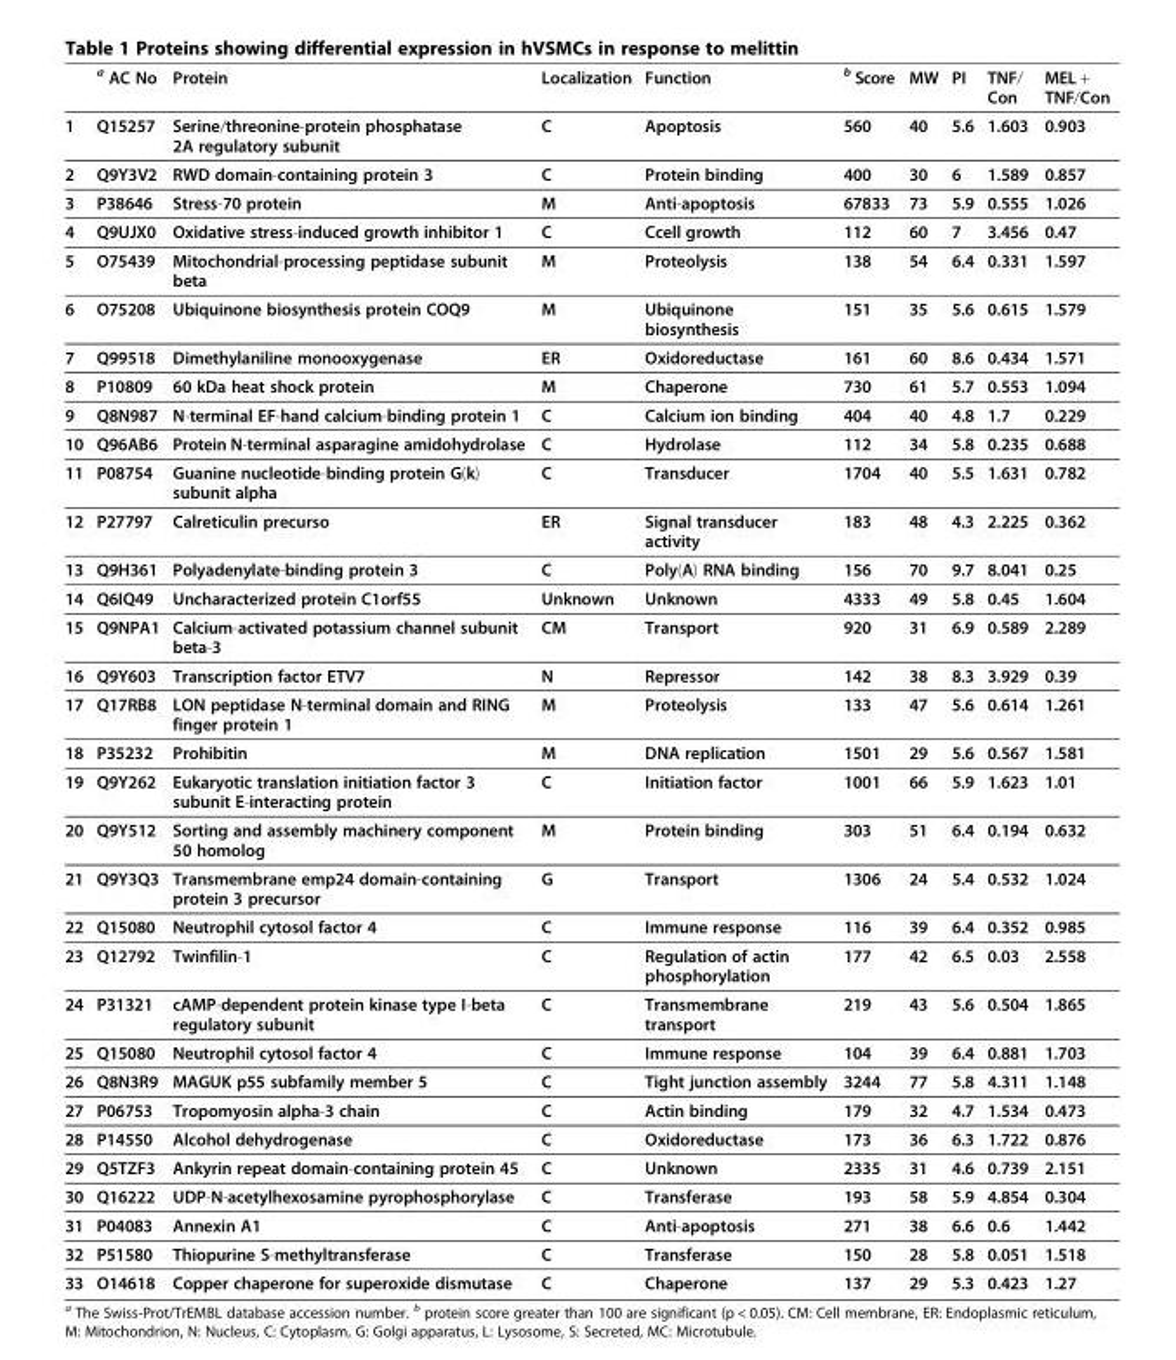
<table><thead><tr><td></td><td><sup>a</sup> AC No</td><td>Protein</td><td>Localization</td><td>Function</td><td><sup>b</sup> Score</td><td>MW</td><td>PI</td><td>TNF/ Con</td><td>MEL + TNF/Con</td></tr></thead><tbody><tr><td>1</td><td>Q15257</td><td>Serine/threonine-protein phosphatase 2A regulatory subunit</td><td>C</td><td>Apoptosis</td><td>560</td><td>40</td><td>5.6</td><td>1.603</td><td>0.903</td></tr><tr><td>2</td><td>Q9Y3V2</td><td>RWD domain-containing protein 3</td><td>C</td><td>Protein binding</td><td>400</td><td>30</td><td>6</td><td>1.589</td><td>0.857</td></tr><tr><td>3</td><td>P38646</td><td>Stress-70 protein</td><td>M</td><td>Anti-apoptosis</td><td>67833</td><td>73</td><td>5.9</td><td>0.555</td><td>1.026</td></tr><tr><td>4</td><td>Q9UJX0</td><td>Oxidative stress-induced growth inhibitor 1</td><td>C</td><td>Ccell growth</td><td>112</td><td>60</td><td>7</td><td>3.456</td><td>0.47</td></tr><tr><td>5</td><td>O75439</td><td>Mitochondrial-processing peptidase subunit beta</td><td>M</td><td>Proteolysis</td><td>138</td><td>54</td><td>6.4</td><td>0.331</td><td>1.597</td></tr><tr><td>6</td><td>O75208</td><td>Ubiquinone biosynthesis protein COQ9</td><td>M</td><td>Ubiquinone biosynthesis</td><td>151</td><td>35</td><td>5.6</td><td>0.615</td><td>1.579</td></tr><tr><td>7</td><td>Q99518</td><td>Dimethylaniline monooxygenase</td><td>ER</td><td>Oxidoreductase</td><td>161</td><td>60</td><td>8.6</td><td>0.434</td><td>1.571</td></tr><tr><td>8</td><td>P10809</td><td>60 kDa heat shock protein</td><td>M</td><td>Chaperone</td><td>730</td><td>61</td><td>5.7</td><td>0.553</td><td>1.094</td></tr><tr><td>9</td><td>Q8N987</td><td>N-terminal EF-hand calcium-binding protein 1</td><td>C</td><td>Calcium ion binding</td><td>404</td><td>40</td><td>4.8</td><td>1.7</td><td>0.229</td></tr><tr><td>10</td><td>Q96AB6</td><td>Protein N-terminal asparagine amidohydrolase</td><td>C</td><td>Hydrolase</td><td>112</td><td>34</td><td>5.8</td><td>0.235</td><td>0.688</td></tr><tr><td>11</td><td>P08754</td><td>Guanine nucleotide-binding protein G(k) subunit alpha</td><td>C</td><td>Transducer</td><td>1704</td><td>40</td><td>5.5</td><td>1.631</td><td>0.782</td></tr><tr><td>12</td><td>P27797</td><td>Calreticulin precurso</td><td>ER</td><td>Signal transducer activity</td><td>183</td><td>48</td><td>4.3</td><td>2.225</td><td>0.362</td></tr><tr><td>13</td><td>Q9H361</td><td>Polyadenylate-binding protein 3</td><td>C</td><td>Poly(A) RNA binding</td><td>156</td><td>70</td><td>9.7</td><td>8.041</td><td>0.25</td></tr><tr><td>14</td><td>Q6IQ49</td><td>Uncharacterized protein C1orf55</td><td>Unknown</td><td>Unknown</td><td>4333</td><td>49</td><td>5.8</td><td>0.45</td><td>1.604</td></tr><tr><td>15</td><td>Q9NPA1</td><td>Calcium-activated potassium channel subunit beta-3</td><td>CM</td><td>Transport</td><td>920</td><td>31</td><td>6.9</td><td>0.589</td><td>2.289</td></tr><tr><td>16</td><td>Q9Y603</td><td>Transcription factor ETV7</td><td>N</td><td>Repressor</td><td>142</td><td>38</td><td>8.3</td><td>3.929</td><td>0.39</td></tr><tr><td>17</td><td>Q17RB8</td><td>LON peptidase N-terminal domain and RING finger protein 1</td><td>M</td><td>Proteolysis</td><td>133</td><td>47</td><td>5.6</td><td>0.614</td><td>1.261</td></tr><tr><td>18</td><td>P35232</td><td>Prohibitin</td><td>M</td><td>DNA replication</td><td>1501</td><td>29</td><td>5.6</td><td>0.567</td><td>1.581</td></tr><tr><td>19</td><td>Q9Y262</td><td>Eukaryotic translation initiation factor 3 subunit E-interacting protein</td><td>C</td><td>Initiation factor</td><td>1001</td><td>66</td><td>5.9</td><td>1.623</td><td>1.01</td></tr><tr><td>20</td><td>Q9Y512</td><td>Sorting and assembly machinery component 50 homolog</td><td>M</td><td>Protein binding</td><td>303</td><td>51</td><td>6.4</td><td>0.194</td><td>0.632</td></tr><tr><td>21</td><td>Q9Y3Q3</td><td>Transmembrane emp24 domain-containing protein 3 precursor</td><td>G</td><td>Transport</td><td>1306</td><td>24</td><td>5.4</td><td>0.532</td><td>1.024</td></tr><tr><td>22</td><td>Q15080</td><td>Neutrophil cytosol factor 4</td><td>C</td><td>Immune response</td><td>116</td><td>39</td><td>6.4</td><td>0.352</td><td>0.985</td></tr><tr><td>23</td><td>Q12792</td><td>Twinfilin-1</td><td>C</td><td>Regulation of actin phosphorylation</td><td>177</td><td>42</td><td>6.5</td><td>0.03</td><td>2.558</td></tr><tr><td>24</td><td>P31321</td><td>cAMP-dependent protein kinase type I-beta regulatory subunit</td><td>C</td><td>Transmembrane transport</td><td>219</td><td>43</td><td>5.6</td><td>0.504</td><td>1.865</td></tr><tr><td>25</td><td>Q15080</td><td>Neutrophil cytosol factor 4</td><td>C</td><td>Immune response</td><td>104</td><td>39</td><td>6.4</td><td>0.881</td><td>1.703</td></tr><tr><td>26</td><td>Q8N3R9</td><td>MAGUK p55 subfamily member 5</td><td>C</td><td>Tight junction assembly</td><td>3244</td><td>77</td><td>5.8</td><td>4.311</td><td>1.148</td></tr><tr><td>27</td><td>P06753</td><td>Tropomyosin alpha-3 chain</td><td>C</td><td>Actin binding</td><td>179</td><td>32</td><td>4.7</td><td>1.534</td><td>0.473</td></tr><tr><td>28</td><td>P14550</td><td>Alcohol dehydrogenase</td><td>C</td><td>Oxidoreductase</td><td>173</td><td>36</td><td>6.3</td><td>1.722</td><td>0.876</td></tr><tr><td>29</td><td>Q5TZF3</td><td>Ankyrin repeat domain-containing protein 45</td><td>C</td><td>Unknown</td><td>2335</td><td>31</td><td>4.6</td><td>0.739</td><td>2.151</td></tr><tr><td>30</td><td>Q16222</td><td>UDP-N-acetylhexosamine pyrophosphorylase</td><td>C</td><td>Transferase</td><td>193</td><td>58</td><td>5.9</td><td>4.854</td><td>0.304</td></tr><tr><td>31</td><td>P04083</td><td>Annexin A1</td><td>C</td><td>Anti-apoptosis</td><td>271</td><td>38</td><td>6.6</td><td>0.6</td><td>1.442</td></tr><tr><td>32</td><td>P51580</td><td>Thiopurine S-methyltransferase</td><td>C</td><td>Transferase</td><td>150</td><td>28</td><td>5.8</td><td>0.051</td><td>1.518</td></tr><tr><td>33</td><td>O14618</td><td>Copper chaperone for superoxide dismutase</td><td>C</td><td>Chaperone</td><td>137</td><td>29</td><td>5.3</td><td>0.423</td><td>1.27</td></tr></tbody></table>